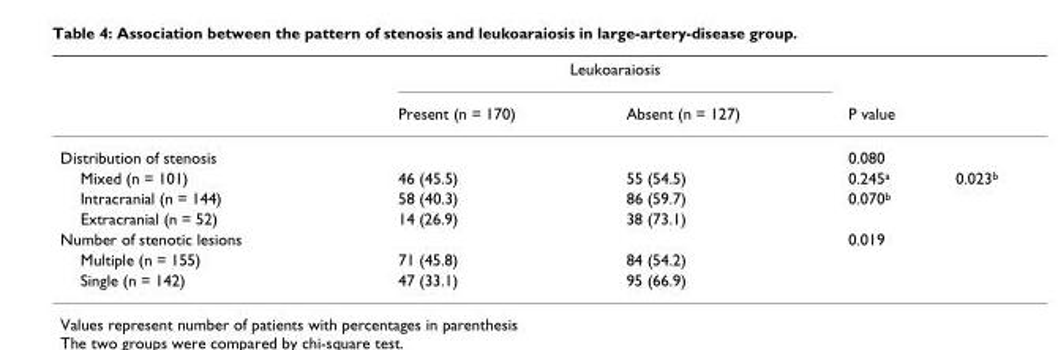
<table><thead><tr><td rowspan="2"></td><td colspan="2">Leukoaraiosis</td><td rowspan="2">P value</td><td rowspan="2"></td></tr><tr><td>Present (n = 170)</td><td>Absent (n = 127)</td></tr></thead><tbody><tr><td>Distribution of stenosis</td><td></td><td></td><td>0.080</td><td></td></tr><tr><td>Mixed (n = 101)</td><td>46 (45.5)</td><td>55 (54.5)</td><td>0.245<sup>a</sup></td><td>0.023<sup>b</sup></td></tr><tr><td>Intracranial (n = 144)</td><td>58 (40.3)</td><td>86 (59.7)</td><td>0.070<sup>b</sup></td><td></td></tr><tr><td>Extracranial (n = 52)</td><td>14 (26.9)</td><td>38 (73.1)</td><td></td><td></td></tr><tr><td>Number of stenotic lesions</td><td></td><td></td><td>0.019</td><td></td></tr><tr><td>Multiple (n = 155)</td><td>71 (45.8)</td><td>84 (54.2)</td><td></td><td></td></tr><tr><td>Single (n = 142)</td><td>47 (33.1)</td><td>95 (66.9)</td><td></td><td></td></tr></tbody></table>